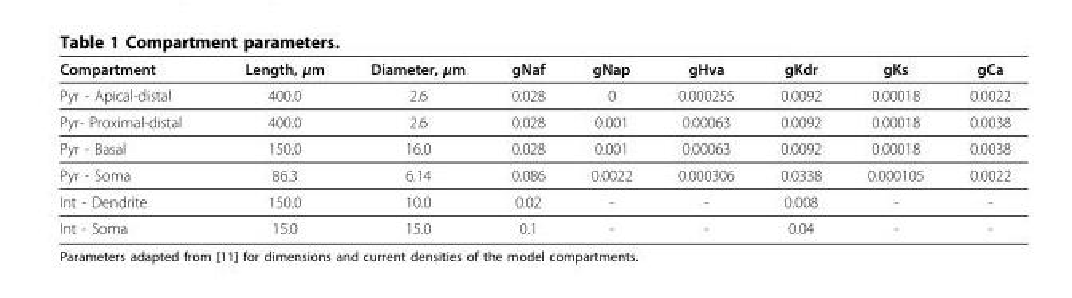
<table><thead><tr><td>Compartment</td><td>Length, μm</td><td>Diameter, μm</td><td>gNaf</td><td>gNap</td><td>gHva</td><td>gKdr</td><td>gKs</td><td>gCa</td></tr></thead><tbody><tr><td>Pyr - Apical-distal</td><td>400.0</td><td>2.6</td><td>0.028</td><td>0</td><td>0.000255</td><td>0.0092</td><td>0.00018</td><td>0.0022</td></tr><tr><td>Pyr- Proximal-distal</td><td>400.0</td><td>2.6</td><td>0.028</td><td>0.001</td><td>0.00063</td><td>0.0092</td><td>0.00018</td><td>0.0038</td></tr><tr><td>Pyr - Basal</td><td>150.0</td><td>16.0</td><td>0.028</td><td>0.001</td><td>0.00063</td><td>0.0092</td><td>0.00018</td><td>0.0038</td></tr><tr><td>Pyr - Soma</td><td>86.3</td><td>6.14</td><td>0.086</td><td>0.0022</td><td>0.000306</td><td>0.0338</td><td>0.000105</td><td>0.0022</td></tr><tr><td>Int - Dendrite</td><td>150.0</td><td>10.0</td><td>0.02</td><td>-</td><td>-</td><td>0.008</td><td>-</td><td>-</td></tr><tr><td>Int - Soma</td><td>15.0</td><td>15.0</td><td>0.1</td><td>-</td><td>-</td><td>0.04</td><td>-</td><td>-</td></tr></tbody></table>